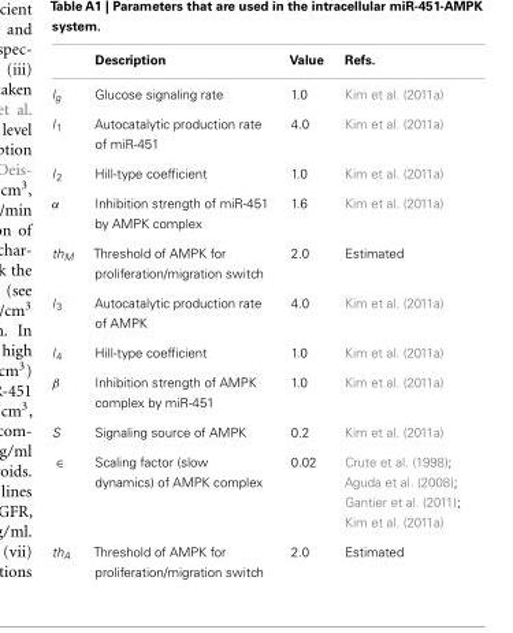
<table><thead><tr><td></td><td>Description</td><td>Value</td><td>Refs.</td></tr></thead><tbody><tr><td>l<sub>g</sub></td><td>Glucose signaling rate</td><td>1.0</td><td>Kim et al. (2011a)</td></tr><tr><td>l<sub>1</sub></td><td>Autocatalytic production rate of miR-451</td><td>4.0</td><td>Kim et al. (2011a)</td></tr><tr><td>l<sub>2</sub></td><td>Hill-type coefficient</td><td>1.0</td><td>Kim et al. (2011a)</td></tr><tr><td>α</td><td>Inhibition strength of miR-451 by AMPK complex</td><td>1.6</td><td>Kim et al. (2011a)</td></tr><tr><td>th<sub>M</sub></td><td>Threshold of AMPK for proliferation/migration switch</td><td>2.0</td><td>Estimated</td></tr><tr><td>l<sub>3</sub></td><td>Autocatalytic production rate of AMPK</td><td>4.0</td><td>Kim et al. (2011a)</td></tr><tr><td>l<sub>4</sub></td><td>Hill-type coefficient</td><td>1.0</td><td>Kim et al. (2011a)</td></tr><tr><td>β</td><td>Inhibition strength of AMPK complex by miR-451</td><td>1.0</td><td>Kim et al. (2011a)</td></tr><tr><td>S</td><td>Signaling source of AMPK</td><td>0.2</td><td>Kim et al. (2011a)</td></tr><tr><td>∈</td><td>Scaling factor (slow dynamics) of AMPK complex</td><td>0.02</td><td>Crute et al. (1998); Aguda et al. (2008); Gantier et al. (2011); Kim et al. (2011a)</td></tr><tr><td>th<sub>A</sub></td><td>Threshold of AMPK for proliferation/migration switch</td><td>2.0</td><td>Estimated</td></tr></tbody></table>